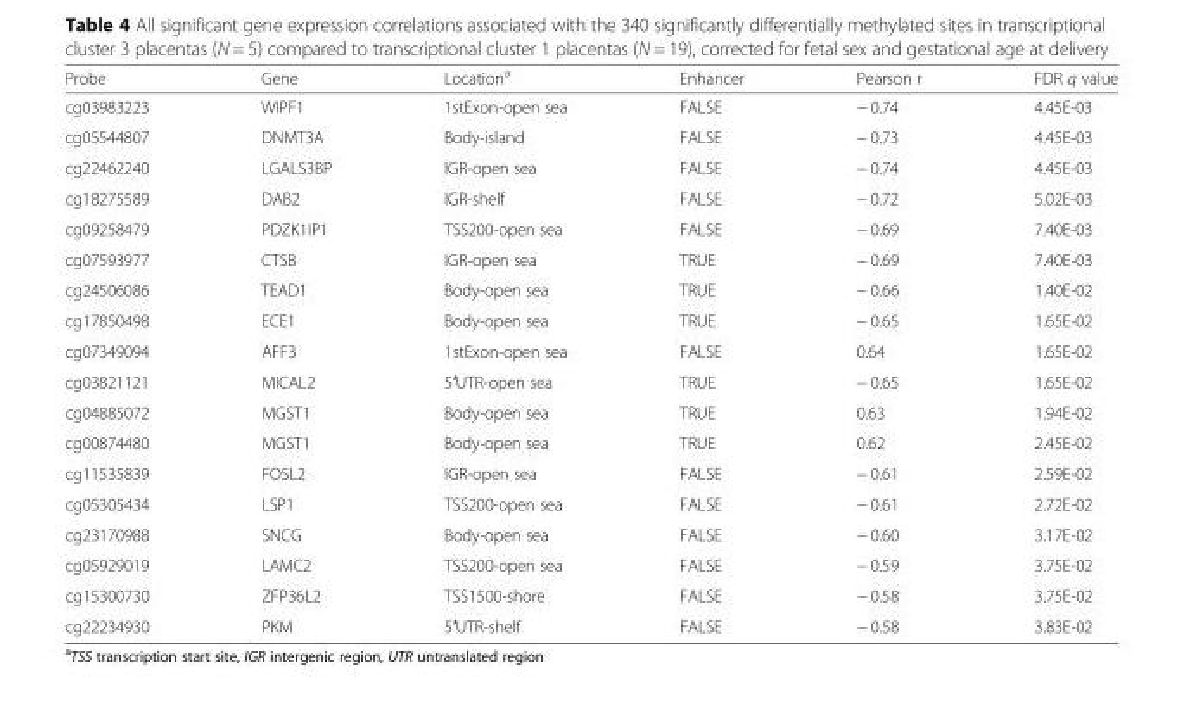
<table><thead><tr><td>Probe</td><td>Gene</td><td>Location<sup>a</sup></td><td>Enhancer</td><td>Pearson r</td><td>FDR q value</td></tr></thead><tbody><tr><td>cg03983223</td><td>WIPF1</td><td>1stExon-open sea</td><td>FALSE</td><td>− 0.74</td><td>4.45E-03</td></tr><tr><td>cg05544807</td><td>DNMT3A</td><td>Body-island</td><td>FALSE</td><td>− 0.73</td><td>4.45E-03</td></tr><tr><td>cg22462240</td><td>LGALS3BP</td><td>IGR-open sea</td><td>FALSE</td><td>− 0.74</td><td>4.45E-03</td></tr><tr><td>cg18275589</td><td>DAB2</td><td>IGR-shelf</td><td>FALSE</td><td>− 0.72</td><td>5.02E-03</td></tr><tr><td>cg09258479</td><td>PDZK1IP1</td><td>TSS200-open sea</td><td>FALSE</td><td>− 0.69</td><td>7.40E-03</td></tr><tr><td>cg07593977</td><td>CTSB</td><td>IGR-open sea</td><td>TRUE</td><td>− 0.69</td><td>7.40E-03</td></tr><tr><td>cg24506086</td><td>TEAD1</td><td>Body-open sea</td><td>TRUE</td><td>− 0.66</td><td>1.40E-02</td></tr><tr><td>cg17850498</td><td>ECE1</td><td>Body-open sea</td><td>TRUE</td><td>− 0.65</td><td>1.65E-02</td></tr><tr><td>cg07349094</td><td>AFF3</td><td>1stExon-open sea</td><td>FALSE</td><td>0.64</td><td>1.65E-02</td></tr><tr><td>cg03821121</td><td>MICAL2</td><td>5′UTR-open sea</td><td>TRUE</td><td>− 0.65</td><td>1.65E-02</td></tr><tr><td>cg04885072</td><td>MGST1</td><td>Body-open sea</td><td>TRUE</td><td>0.63</td><td>1.94E-02</td></tr><tr><td>cg00874480</td><td>MGST1</td><td>Body-open sea</td><td>TRUE</td><td>0.62</td><td>2.45E-02</td></tr><tr><td>cg11535839</td><td>FOSL2</td><td>IGR-open sea</td><td>FALSE</td><td>− 0.61</td><td>2.59E-02</td></tr><tr><td>cg05305434</td><td>LSP1</td><td>TSS200-open sea</td><td>FALSE</td><td>− 0.61</td><td>2.72E-02</td></tr><tr><td>cg23170988</td><td>SNCG</td><td>Body-open sea</td><td>FALSE</td><td>− 0.60</td><td>3.17E-02</td></tr><tr><td>cg05929019</td><td>LAMC2</td><td>TSS200-open sea</td><td>FALSE</td><td>− 0.59</td><td>3.75E-02</td></tr><tr><td>cg15300730</td><td>ZFP36L2</td><td>TSS1500-shore</td><td>FALSE</td><td>− 0.58</td><td>3.75E-02</td></tr><tr><td>cg22234930</td><td>PKM</td><td>5′UTR-shelf</td><td>FALSE</td><td>− 0.58</td><td>3.83E-02</td></tr></tbody></table>